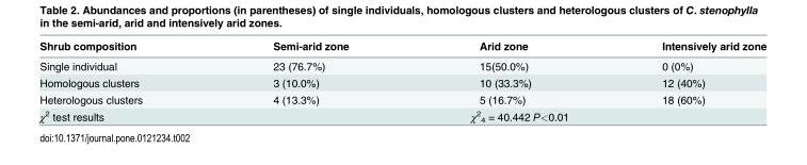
<table><thead><tr><td>Shrub composition</td><td>Semi-arid zone</td><td>Arid zone</td><td>Intensively arid zone</td></tr></thead><tbody><tr><td>Single individual</td><td>23 (76.7%)</td><td>15(50.0%)</td><td>0 (0%)</td></tr><tr><td>Homologous clusters</td><td>3 (10.0%)</td><td>10 (33.3%)</td><td>12 (40%)</td></tr><tr><td>Heterologous clusters</td><td>4 (13.3%)</td><td>5 (16.7%)</td><td>18 (60%)</td></tr><tr><td>χ<sup>2</sup> test results</td><td colspan="3">χ<sup>2</sup> <sub>4</sub> = 40.442 P&lt;0.01</td></tr></tbody></table>